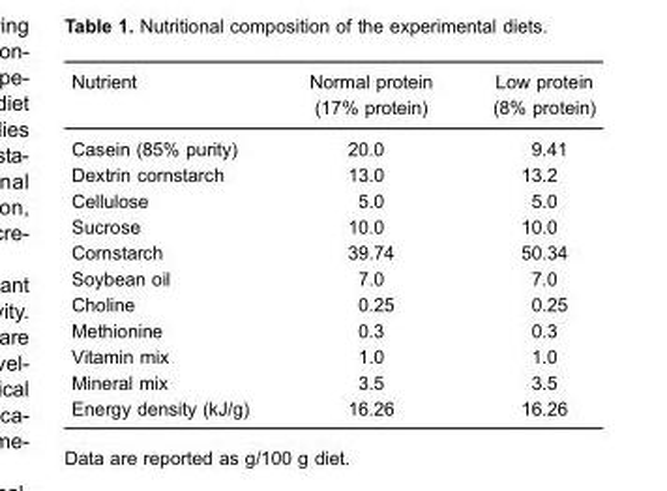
<table><thead><tr><td>Nutrient</td><td>Normal protein (17% protein)</td><td>Low protein (8% protein)</td></tr></thead><tbody><tr><td>Casein (85% purity)</td><td>20.0</td><td>9.41</td></tr><tr><td>Dextrin cornstarch</td><td>13.0</td><td>13.2</td></tr><tr><td>Cellulose</td><td>5.0</td><td>5.0</td></tr><tr><td>Sucrose</td><td>10.0</td><td>10.0</td></tr><tr><td>Cornstarch</td><td>39.74</td><td>50.34</td></tr><tr><td>Soybean oil</td><td>7.0</td><td>7.0</td></tr><tr><td>Choline</td><td>0.25</td><td>0.25</td></tr><tr><td>Methionine</td><td>0.3</td><td>0.3</td></tr><tr><td>Vitamin mix</td><td>1.0</td><td>1.0</td></tr><tr><td>Mineral mix</td><td>3.5</td><td>3.5</td></tr><tr><td>Energy density (kJ/g)</td><td>16.26</td><td>16.26</td></tr></tbody></table>